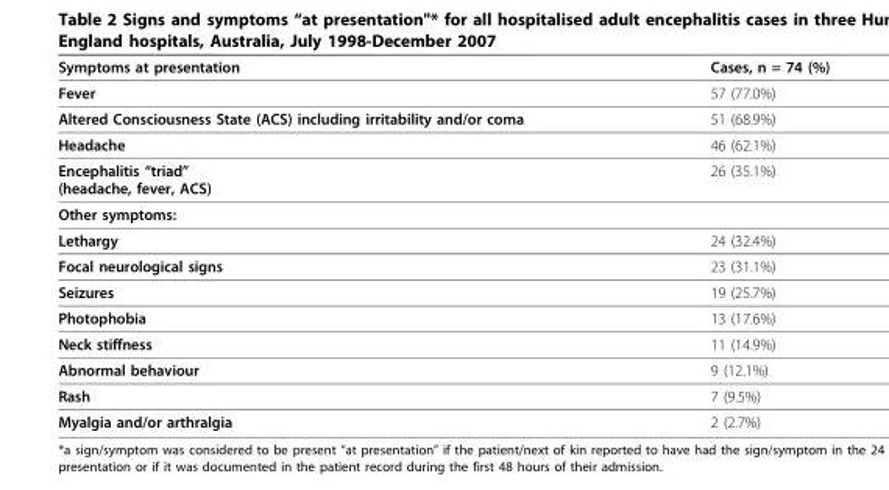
<table><thead><tr><td>Symptoms at presentation</td><td>Cases, n = 74 (%)</td></tr></thead><tbody><tr><td>Fever</td><td>57 (77.0%)</td></tr><tr><td>Altered Consciousness State (ACS) including irritability and/or coma</td><td>51 (68.9%)</td></tr><tr><td>Headache</td><td>46 (62.1%)</td></tr><tr><td>Encephalitis “triad” (headache, fever, ACS)</td><td>26 (35.1%)</td></tr><tr><td colspan="2">Other symptoms:</td></tr><tr><td>Lethargy</td><td>24 (32.4%)</td></tr><tr><td>Focal neurological signs</td><td>23 (31.1%)</td></tr><tr><td>Seizures</td><td>19 (25.7%)</td></tr><tr><td>Photophobia</td><td>13 (17.6%)</td></tr><tr><td>Neck stiffness</td><td>11 (14.9%)</td></tr><tr><td>Abnormal behaviour</td><td>9 (12.1%)</td></tr><tr><td>Rash</td><td>7 (9.5%)</td></tr><tr><td>Myalgia and/or arthralgia</td><td>2 (2.7%)</td></tr></tbody></table>